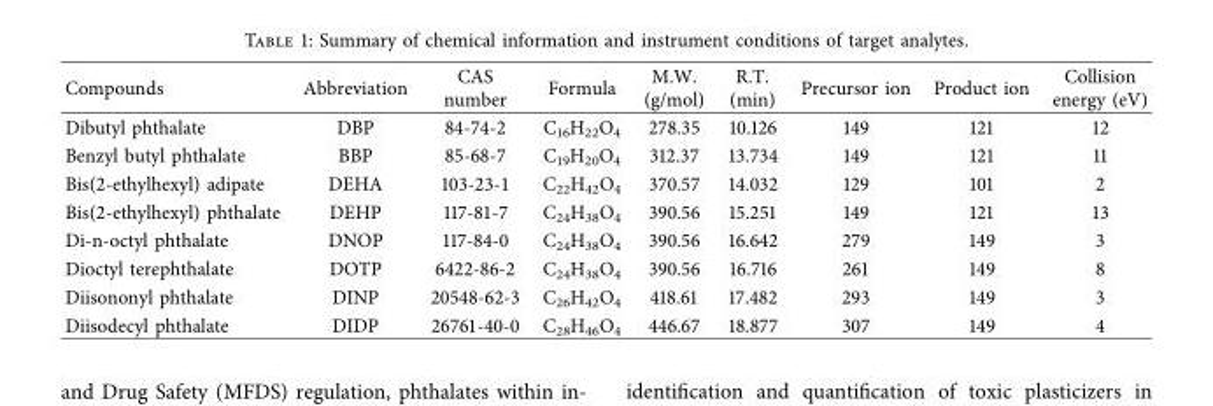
<table><thead><tr><td>Compounds</td><td>Abbreviation</td><td>CAS number</td><td>Formula</td><td>M.W. (g/mol)</td><td>R.T. (min)</td><td>Precursor ion</td><td>Product ion</td><td>Collision energy (eV)</td></tr></thead><tbody><tr><td>Dibutyl phthalate</td><td>DBP</td><td>84-74-2</td><td>C<sub>16</sub>H<sub>22</sub>O<sub>4</sub></td><td>278.35</td><td>10.126</td><td>149</td><td>121</td><td>12</td></tr><tr><td>Benzyl butyl phthalate</td><td>BBP</td><td>85-68-7</td><td>C<sub>19</sub>H<sub>20</sub>O<sub>4</sub></td><td>312.37</td><td>13.734</td><td>149</td><td>121</td><td>11</td></tr><tr><td>Bis(2-ethylhexyl) adipate</td><td>DEHA</td><td>103-23-1</td><td>C<sub>22</sub>H<sub>42</sub>O<sub>4</sub></td><td>370.57</td><td>14.032</td><td>129</td><td>101</td><td>2</td></tr><tr><td>Bis(2-ethylhexyl) phthalate</td><td>DEHP</td><td>117-81-7</td><td>C<sub>24</sub>H<sub>38</sub>O<sub>4</sub></td><td>390.56</td><td>15.251</td><td>149</td><td>121</td><td>13</td></tr><tr><td>Di-n-octyl phthalate</td><td>DNOP</td><td>117-84-0</td><td>C<sub>24</sub>H<sub>38</sub>O<sub>4</sub></td><td>390.56</td><td>16.642</td><td>279</td><td>149</td><td>3</td></tr><tr><td>Dioctyl terephthalate</td><td>DOTP</td><td>6422-86-2</td><td>C<sub>24</sub>H<sub>38</sub>O<sub>4</sub></td><td>390.56</td><td>16.716</td><td>261</td><td>149</td><td>8</td></tr><tr><td>Diisononyl phthalate</td><td>DINP</td><td>20548-62-3</td><td>C<sub>26</sub>H<sub>42</sub>O<sub>4</sub></td><td>418.61</td><td>17.482</td><td>293</td><td>149</td><td>3</td></tr><tr><td>Diisodecyl phthalate</td><td>DIDP</td><td>26761-40-0</td><td>C<sub>28</sub>H<sub>46</sub>O<sub>4</sub></td><td>446.67</td><td>18.877</td><td>307</td><td>149</td><td>4</td></tr></tbody></table>